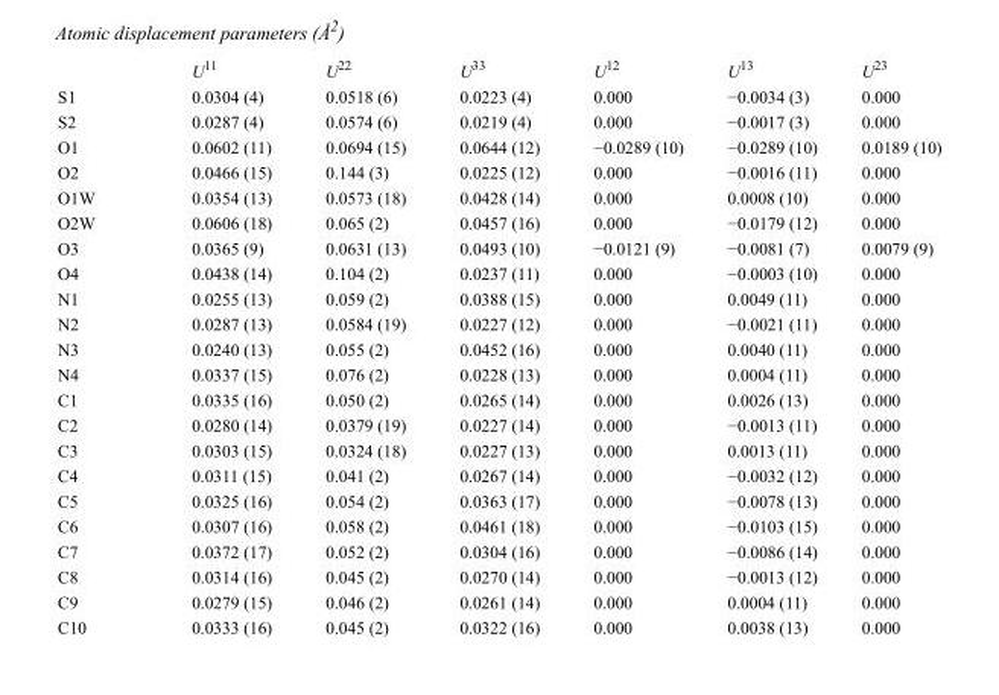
<table><thead><tr><td></td><td>U<sup>11</sup></td><td>U<sup>22</sup></td><td>U<sup>33</sup></td><td>U<sup>12</sup></td><td>U<sup>13</sup></td><td>U<sup>23</sup></td></tr></thead><tbody><tr><td>S1</td><td>0.0304 (4)</td><td>0.0518 (6)</td><td>0.0223 (4)</td><td>0.000</td><td>−0.0034 (3)</td><td>0.000</td></tr><tr><td>S2</td><td>0.0287 (4)</td><td>0.0574 (6)</td><td>0.0219 (4)</td><td>0.000</td><td>−0.0017 (3)</td><td>0.000</td></tr><tr><td>O1</td><td>0.0602 (11)</td><td>0.0694 (15)</td><td>0.0644 (12)</td><td>−0.0289 (10)</td><td>−0.0289 (10)</td><td>0.0189 (10)</td></tr><tr><td>O2</td><td>0.0466 (15)</td><td>0.144 (3)</td><td>0.0225 (12)</td><td>0.000</td><td>−0.0016 (11)</td><td>0.000</td></tr><tr><td>O1W</td><td>0.0354 (13)</td><td>0.0573 (18)</td><td>0.0428 (14)</td><td>0.000</td><td>0.0008 (10)</td><td>0.000</td></tr><tr><td>O2W</td><td>0.0606 (18)</td><td>0.065 (2)</td><td>0.0457 (16)</td><td>0.000</td><td>−0.0179 (12)</td><td>0.000</td></tr><tr><td>O3</td><td>0.0365 (9)</td><td>0.0631 (13)</td><td>0.0493 (10)</td><td>−0.0121 (9)</td><td>−0.0081 (7)</td><td>0.0079 (9)</td></tr><tr><td>O4</td><td>0.0438 (14)</td><td>0.104 (2)</td><td>0.0237 (11)</td><td>0.000</td><td>−0.0003 (10)</td><td>0.000</td></tr><tr><td>N1</td><td>0.0255 (13)</td><td>0.059 (2)</td><td>0.0388 (15)</td><td>0.000</td><td>0.0049 (11)</td><td>0.000</td></tr><tr><td>N2</td><td>0.0287 (13)</td><td>0.0584 (19)</td><td>0.0227 (12)</td><td>0.000</td><td>−0.0021 (11)</td><td>0.000</td></tr><tr><td>N3</td><td>0.0240 (13)</td><td>0.055 (2)</td><td>0.0452 (16)</td><td>0.000</td><td>0.0040 (11)</td><td>0.000</td></tr><tr><td>N4</td><td>0.0337 (15)</td><td>0.076 (2)</td><td>0.0228 (13)</td><td>0.000</td><td>0.0004 (11)</td><td>0.000</td></tr><tr><td>C1</td><td>0.0335 (16)</td><td>0.050 (2)</td><td>0.0265 (14)</td><td>0.000</td><td>0.0026 (13)</td><td>0.000</td></tr><tr><td>C2</td><td>0.0280 (14)</td><td>0.0379 (19)</td><td>0.0227 (14)</td><td>0.000</td><td>−0.0013 (11)</td><td>0.000</td></tr><tr><td>C3</td><td>0.0303 (15)</td><td>0.0324 (18)</td><td>0.0227 (13)</td><td>0.000</td><td>0.0013 (11)</td><td>0.000</td></tr><tr><td>C4</td><td>0.0311 (15)</td><td>0.041 (2)</td><td>0.0267 (14)</td><td>0.000</td><td>−0.0032 (12)</td><td>0.000</td></tr><tr><td>C5</td><td>0.0325 (16)</td><td>0.054 (2)</td><td>0.0363 (17)</td><td>0.000</td><td>−0.0078 (13)</td><td>0.000</td></tr><tr><td>C6</td><td>0.0307 (16)</td><td>0.058 (2)</td><td>0.0461 (18)</td><td>0.000</td><td>−0.0103 (15)</td><td>0.000</td></tr><tr><td>C7</td><td>0.0372 (17)</td><td>0.052 (2)</td><td>0.0304 (16)</td><td>0.000</td><td>−0.0086 (14)</td><td>0.000</td></tr><tr><td>C8</td><td>0.0314 (16)</td><td>0.045 (2)</td><td>0.0270 (14)</td><td>0.000</td><td>−0.0013 (12)</td><td>0.000</td></tr><tr><td>C9</td><td>0.0279 (15)</td><td>0.046 (2)</td><td>0.0261 (14)</td><td>0.000</td><td>0.0004 (11)</td><td>0.000</td></tr><tr><td>C10</td><td>0.0333 (16)</td><td>0.045 (2)</td><td>0.0322 (16)</td><td>0.000</td><td>0.0038 (13)</td><td>0.000</td></tr></tbody></table>